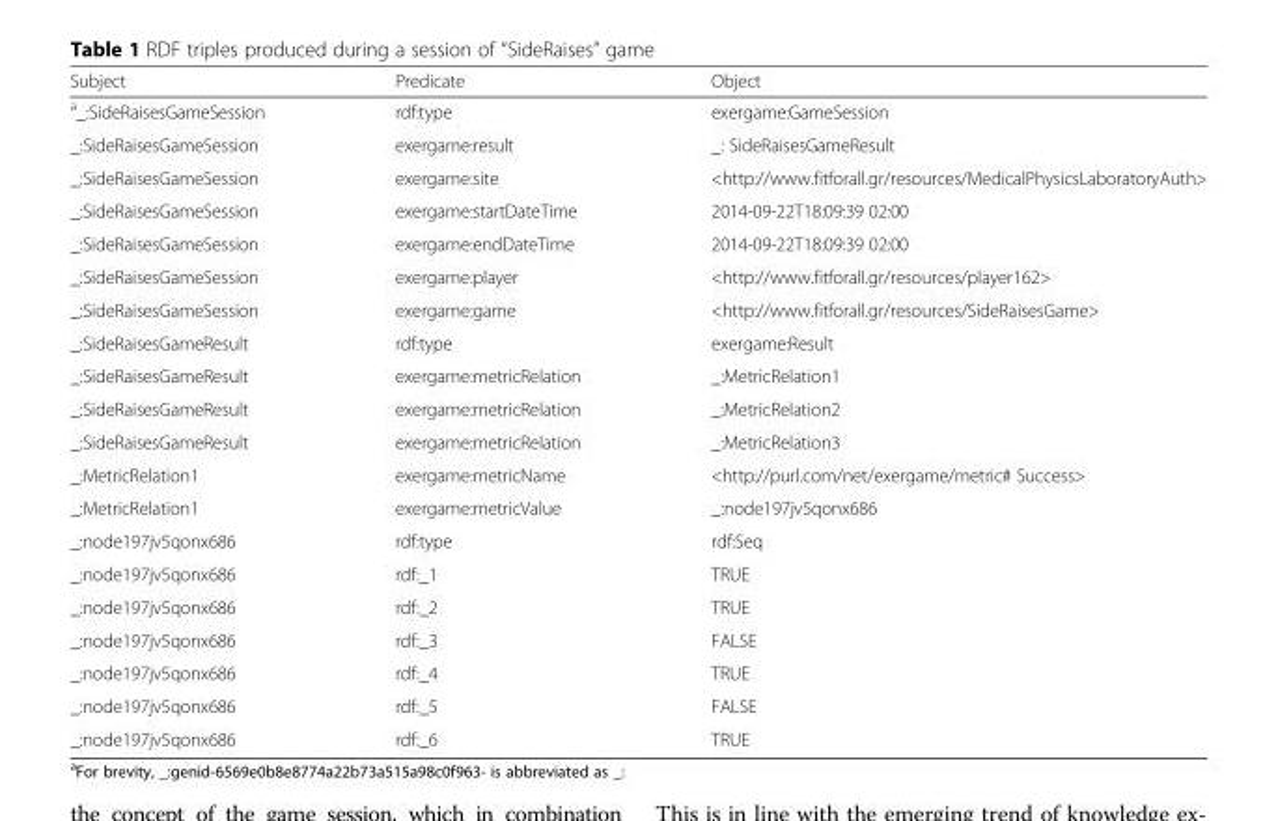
<table><thead><tr><td>Subject</td><td>Predicate</td><td>Object</td></tr></thead><tbody><tr><td><sup>a</sup>_:SideRaisesGameSession</td><td>rdf:type</td><td>exergame:GameSession</td></tr><tr><td>_:SideRaisesGameSession</td><td>exergame:result</td><td>_: SideRaisesGameResult</td></tr><tr><td>_:SideRaisesGameSession</td><td>exergame:site</td><td>&lt;http://www.fitforall.gr/resources/MedicalPhysicsLaboratoryAuth&gt;</td></tr><tr><td>_:SideRaisesGameSession</td><td>exergame:startDateTime</td><td>2014-09-22T18:09:39 02:00</td></tr><tr><td>_:SideRaisesGameSession</td><td>exergame:endDateTime</td><td>2014-09-22T18:09:39 02:00</td></tr><tr><td>_:SideRaisesGameSession</td><td>exergame:player</td><td>&lt;http://www.fitforall.gr/resources/player162&gt;</td></tr><tr><td>_:SideRaisesGameSession</td><td>exergame:game</td><td>&lt;http://www.fitforall.gr/resources/SideRaisesGame&gt;</td></tr><tr><td>_:SideRaisesGameResult</td><td>rdf:type</td><td>exergame:Result</td></tr><tr><td>_:SideRaisesGameResult</td><td>exergame:metricRelation</td><td>_:MetricRelation1</td></tr><tr><td>_:SideRaisesGameResult</td><td>exergame:metricRelation</td><td>_:MetricRelation2</td></tr><tr><td>_:SideRaisesGameResult</td><td>exergame:metricRelation</td><td>_:MetricRelation3</td></tr><tr><td>_:MetricRelation1</td><td>exergame:metricName</td><td>&lt;http://purl.com/net/exergame/metric# Success&gt;</td></tr><tr><td>_:MetricRelation1</td><td>exergame:metricValue</td><td>_:node197jv5qonx686</td></tr><tr><td>_:node197jv5qonx686</td><td>rdf:type</td><td>rdf:Seq</td></tr><tr><td>_:node197jv5qonx686</td><td>rdf:_1</td><td>TRUE</td></tr><tr><td>_:node197jv5qonx686</td><td>rdf:_2</td><td>TRUE</td></tr><tr><td>_:node197jv5qonx686</td><td>rdf:_3</td><td>FALSE</td></tr><tr><td>_:node197jv5qonx686</td><td>rdf:_4</td><td>TRUE</td></tr><tr><td>_:node197jv5qonx686</td><td>rdf:_5</td><td>FALSE</td></tr><tr><td>_:node197jv5qonx686</td><td>rdf:_6</td><td>TRUE</td></tr></tbody></table>